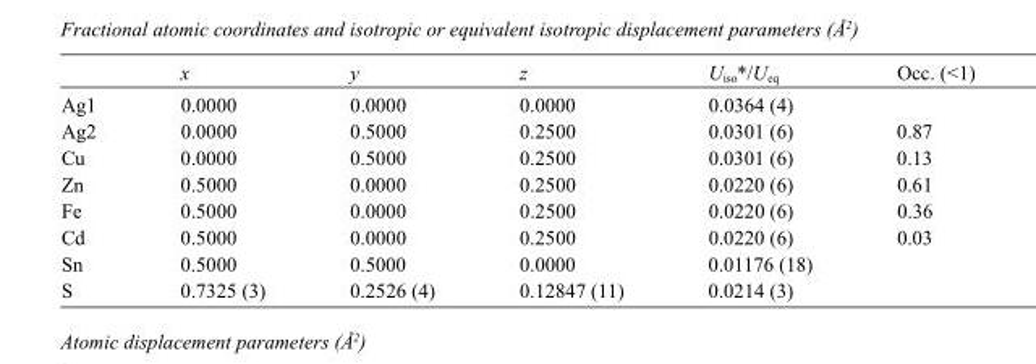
<table><thead><tr><td></td><td>x</td><td>y</td><td>z</td><td>U<sub>iso</sub>*/U<sub>eq</sub></td><td>Occ. (&lt;1)</td></tr></thead><tbody><tr><td>Ag1</td><td>0.0000</td><td>0.0000</td><td>0.0000</td><td>0.0364 (4)</td><td></td></tr><tr><td>Ag2</td><td>0.0000</td><td>0.5000</td><td>0.2500</td><td>0.0301 (6)</td><td>0.87</td></tr><tr><td>Cu</td><td>0.0000</td><td>0.5000</td><td>0.2500</td><td>0.0301 (6)</td><td>0.13</td></tr><tr><td>Zn</td><td>0.5000</td><td>0.0000</td><td>0.2500</td><td>0.0220 (6)</td><td>0.61</td></tr><tr><td>Fe</td><td>0.5000</td><td>0.0000</td><td>0.2500</td><td>0.0220 (6)</td><td>0.36</td></tr><tr><td>Cd</td><td>0.5000</td><td>0.0000</td><td>0.2500</td><td>0.0220 (6)</td><td>0.03</td></tr><tr><td>Sn</td><td>0.5000</td><td>0.5000</td><td>0.0000</td><td>0.01176 (18)</td><td></td></tr><tr><td>S</td><td>0.7325 (3)</td><td>0.2526 (4)</td><td>0.12847 (11)</td><td>0.0214 (3)</td><td></td></tr></tbody></table>